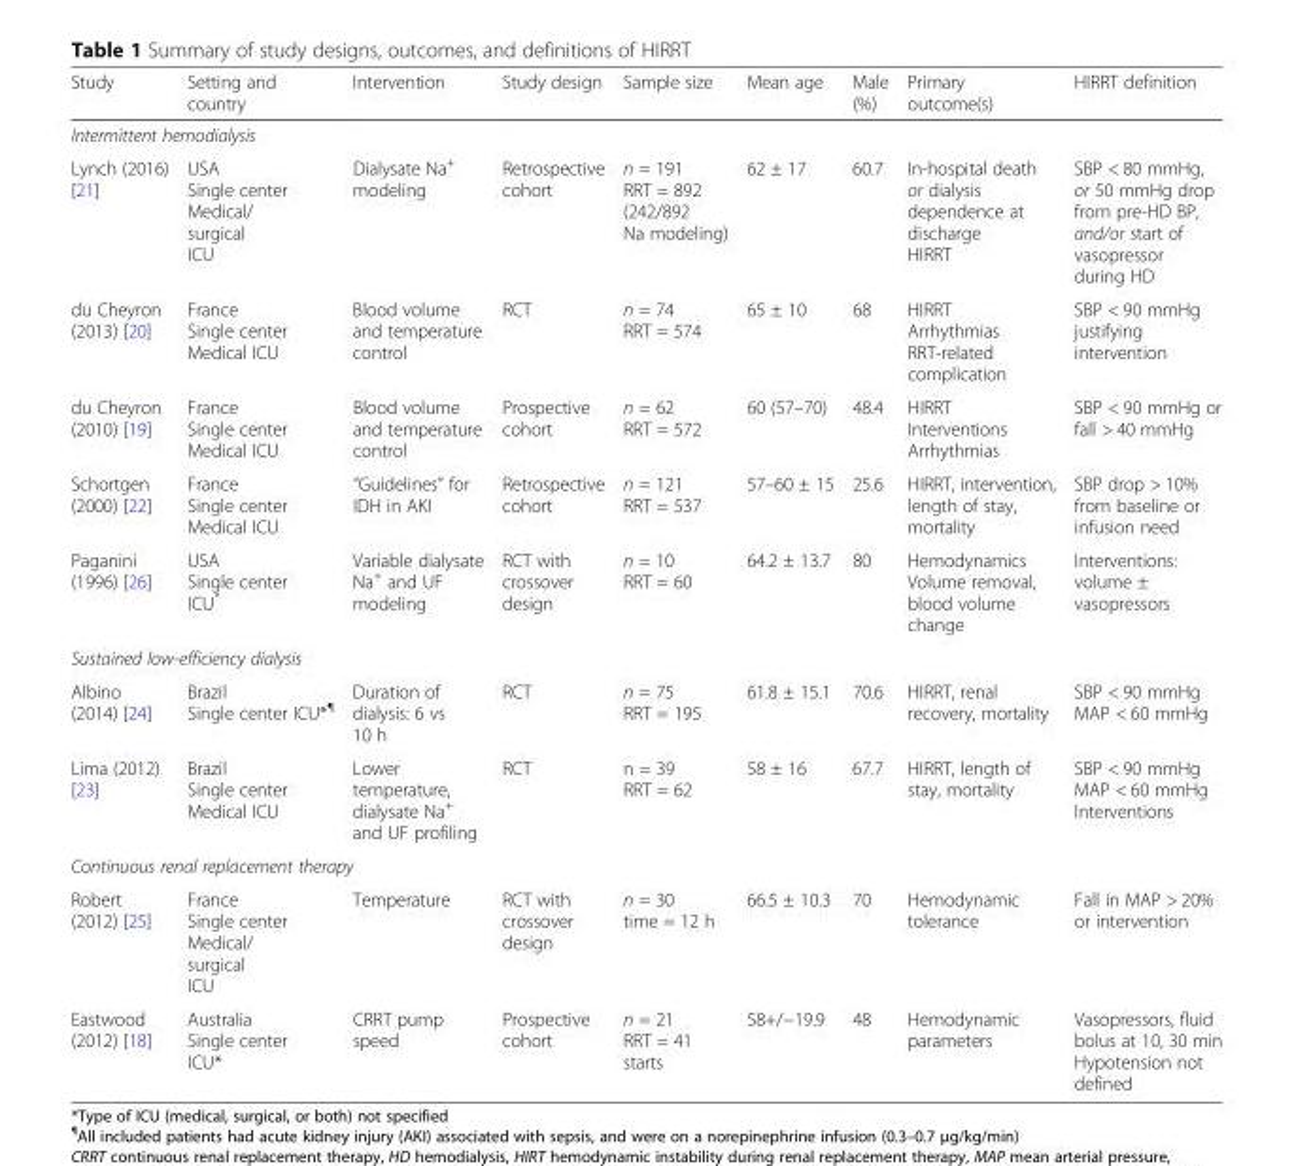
<table><thead><tr><td>Study</td><td>Setting and country</td><td>Intervention</td><td>Study design</td><td>Sample size</td><td>Mean age</td><td>Male (%)</td><td>Primary outcome(s)</td><td>HIRRT definition</td></tr></thead><tbody><tr><td colspan="9">Intermittent hemodialysis</td></tr><tr><td>Lynch (2016) [21]</td><td>USA Single center Medical/ surgical ICU</td><td>Dialysate Na<sup>+</sup> modeling</td><td>Retrospective cohort</td><td>n = 191 RRT = 892 (242/892 Na modeling)</td><td>62 ± 17</td><td>60.7</td><td>In-hospital death or dialysis dependence at discharge HIRRT</td><td>SBP &lt; 80 mmHg, or 50 mmHg drop from pre-HD BP, and/or start of vasopressor during HD</td></tr><tr><td>du Cheyron (2013) [20]</td><td>France Single center Medical ICU</td><td>Blood volume and temperature control</td><td>RCT</td><td>n = 74 RRT = 574</td><td>65 ± 10</td><td>68</td><td>HIRRT Arrhythmias RRT-related complication</td><td>SBP &lt; 90 mmHg justifying intervention</td></tr><tr><td>du Cheyron (2010) [19]</td><td>France Single center Medical ICU</td><td>Blood volume and temperature control</td><td>Prospective cohort</td><td>n = 62 RRT = 572</td><td>60 (57–70)</td><td>48.4</td><td>HIRRT Interventions Arrhythmias</td><td>SBP &lt; 90 mmHg or fall &gt; 40 mmHg</td></tr><tr><td>Schortgen (2000) [22]</td><td>France Single center Medical ICU</td><td>“Guidelines” for IDH in AKI</td><td>Retrospective cohort</td><td>n = 121 RRT = 537</td><td>57–60 ± 15</td><td>25.6</td><td>HIRRT, intervention, length of stay, mortality</td><td>SBP drop &gt; 10% from baseline or infusion need</td></tr><tr><td>Paganini (1996) [26]</td><td>USA Single center ICU*</td><td>Variable dialysate Na<sup>+</sup> and UF modeling</td><td>RCT with crossover design</td><td>n = 10 RRT = 60</td><td>64.2 ± 13.7</td><td>80</td><td>Hemodynamics Volume removal, blood volume change</td><td>Interventions: volume ± vasopressors</td></tr><tr><td colspan="9">Sustained low-efficiency dialysis</td></tr><tr><td>Albino (2014) [24]</td><td>Brazil Single center ICU*<sup>¶</sup></td><td>Duration of dialysis: 6 vs 10 h</td><td>RCT</td><td>n = 75 RRT = 195</td><td>61.8 ± 15.1</td><td>70.6</td><td>HIRRT, renal recovery, mortality</td><td>SBP &lt; 90 mmHg MAP &lt; 60 mmHg</td></tr><tr><td>Lima (2012) [23]</td><td>Brazil Single center Medical ICU</td><td>Lower temperature, dialysate Na<sup>+</sup> and UF profiling</td><td>RCT</td><td>n = 39 RRT = 62</td><td>58 ± 16</td><td>67.7</td><td>HIRRT, length of stay, mortality</td><td>SBP &lt; 90 mmHg MAP &lt; 60 mmHg Interventions</td></tr><tr><td colspan="9">Continuous renal replacement therapy</td></tr><tr><td>Robert (2012) [25]</td><td>France Single center Medical/ surgical ICU</td><td>Temperature</td><td>RCT with crossover design</td><td>n = 30 time = 12 h</td><td>66.5 ± 10.3</td><td>70</td><td>Hemodynamic tolerance</td><td>Fall in MAP &gt; 20% or intervention</td></tr><tr><td>Eastwood (2012) [18]</td><td>Australia Single center ICU*</td><td>CRRT pump speed</td><td>Prospective cohort</td><td>n = 21 RRT = 41 starts</td><td>58+/−19.9</td><td>48</td><td>Hemodynamic parameters</td><td>Vasopressors, fluid bolus at 10, 30 min Hypotension not defined</td></tr></tbody></table>